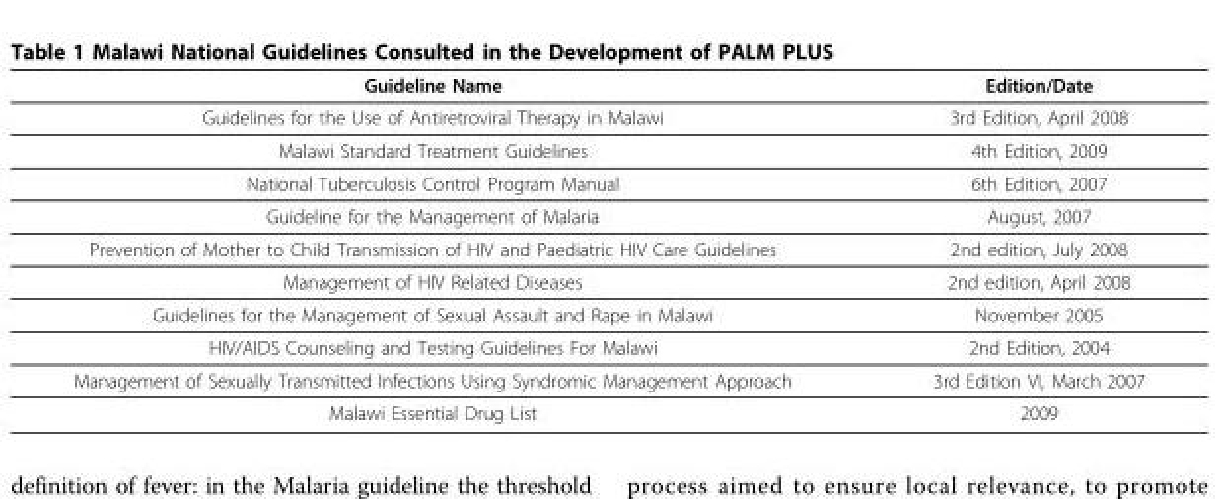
<table><thead><tr><td>Guideline Name</td><td>Edition/Date</td></tr></thead><tbody><tr><td>Guidelines for the Use of Antiretroviral Therapy in Malawi</td><td>3rd Edition, April 2008</td></tr><tr><td>Malawi Standard Treatment Guidelines</td><td>4th Edition, 2009</td></tr><tr><td>National Tuberculosis Control Program Manual</td><td>6th Edition, 2007</td></tr><tr><td>Guideline for the Management of Malaria</td><td>August, 2007</td></tr><tr><td>Prevention of Mother to Child Transmission of HIV and Paediatric HIV Care Guidelines</td><td>2nd edition, July 2008</td></tr><tr><td>Management of HIV Related Diseases</td><td>2nd edition, April 2008</td></tr><tr><td>Guidelines for the Management of Sexual Assault and Rape in Malawi</td><td>November 2005</td></tr><tr><td>HIV/AIDS Counseling and Testing Guidelines For Malawi</td><td>2nd Edition, 2004</td></tr><tr><td>Management of Sexually Transmitted Infections Using Syndromic Management Approach</td><td>3rd Edition VI, March 2007</td></tr><tr><td>Malawi Essential Drug List</td><td>2009</td></tr></tbody></table>